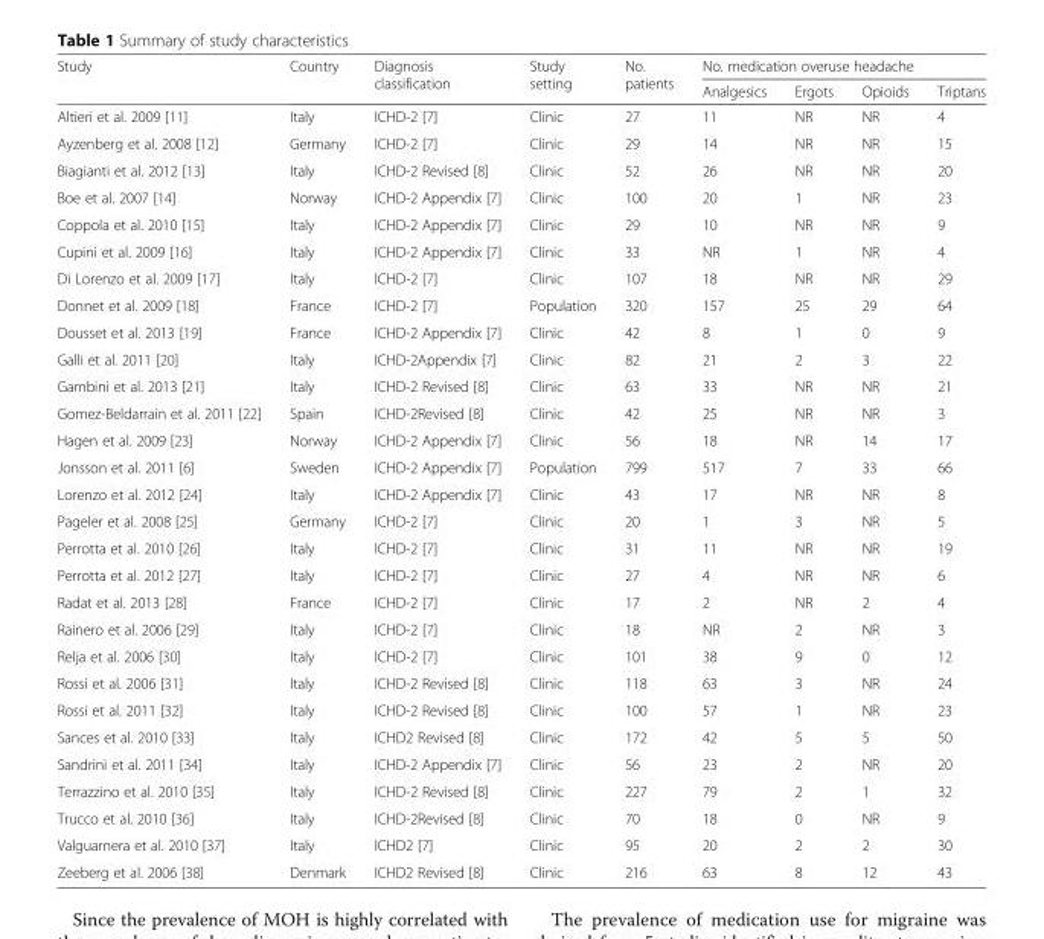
<table><thead><tr><td rowspan="2">Study</td><td rowspan="2">Country</td><td rowspan="2">Diagnosis classification</td><td rowspan="2">Study setting</td><td rowspan="2">No. patients</td><td colspan="4">No. medication overuse headache</td></tr><tr><td>Analgesics</td><td>Ergots</td><td>Opioids</td><td>Triptans</td></tr></thead><tbody><tr><td>Altieri et al. 2009 [11]</td><td>Italy</td><td>ICHD-2 [7]</td><td>Clinic</td><td>27</td><td>11</td><td>NR</td><td>NR</td><td>4</td></tr><tr><td>Ayzenberg et al. 2008 [12]</td><td>Germany</td><td>ICHD-2 [7]</td><td>Clinic</td><td>29</td><td>14</td><td>NR</td><td>NR</td><td>15</td></tr><tr><td>Biagianti et al. 2012 [13]</td><td>Italy</td><td>ICHD-2 Revised [8]</td><td>Clinic</td><td>52</td><td>26</td><td>NR</td><td>NR</td><td>20</td></tr><tr><td>Boe et al. 2007 [14]</td><td>Norway</td><td>ICHD-2 Appendix [7]</td><td>Clinic</td><td>100</td><td>20</td><td>1</td><td>NR</td><td>23</td></tr><tr><td>Coppola et al. 2010 [15]</td><td>Italy</td><td>ICHD-2 Appendix [7]</td><td>Clinic</td><td>29</td><td>10</td><td>NR</td><td>NR</td><td>9</td></tr><tr><td>Cupini et al. 2009 [16]</td><td>Italy</td><td>ICHD-2 Appendix [7]</td><td>Clinic</td><td>33</td><td>NR</td><td>1</td><td>NR</td><td>4</td></tr><tr><td>Di Lorenzo et al. 2009 [17]</td><td>Italy</td><td>ICHD-2 [7]</td><td>Clinic</td><td>107</td><td>18</td><td>NR</td><td>NR</td><td>29</td></tr><tr><td>Donnet et al. 2009 [18]</td><td>France</td><td>ICHD-2 [7]</td><td>Population</td><td>320</td><td>157</td><td>25</td><td>29</td><td>64</td></tr><tr><td>Dousset et al. 2013 [19]</td><td>France</td><td>ICHD-2 Appendix [7]</td><td>Clinic</td><td>42</td><td>8</td><td>1</td><td>0</td><td>9</td></tr><tr><td>Galli et al. 2011 [20]</td><td>Italy</td><td>ICHD-2Appendix [7]</td><td>Clinic</td><td>82</td><td>21</td><td>2</td><td>3</td><td>22</td></tr><tr><td>Gambini et al. 2013 [21]</td><td>Italy</td><td>ICHD-2 Revised [8]</td><td>Clinic</td><td>63</td><td>33</td><td>NR</td><td>NR</td><td>21</td></tr><tr><td>Gomez-Beldarrain et al. 2011 [22]</td><td>Spain</td><td>ICHD-2Revised [8]</td><td>Clinic</td><td>42</td><td>25</td><td>NR</td><td>NR</td><td>3</td></tr><tr><td>Hagen et al. 2009 [23]</td><td>Norway</td><td>ICHD-2 Appendix [7]</td><td>Clinic</td><td>56</td><td>18</td><td>NR</td><td>14</td><td>17</td></tr><tr><td>Jonsson et al. 2011 [6]</td><td>Sweden</td><td>ICHD-2 Appendix [7]</td><td>Population</td><td>799</td><td>517</td><td>7</td><td>33</td><td>66</td></tr><tr><td>Lorenzo et al. 2012 [24]</td><td>Italy</td><td>ICHD-2 Appendix [7]</td><td>Clinic</td><td>43</td><td>17</td><td>NR</td><td>NR</td><td>8</td></tr><tr><td>Pageler et al. 2008 [25]</td><td>Germany</td><td>ICHD-2 [7]</td><td>Clinic</td><td>20</td><td>1</td><td>3</td><td>NR</td><td>5</td></tr><tr><td>Perrotta et al. 2010 [26]</td><td>Italy</td><td>ICHD-2 [7]</td><td>Clinic</td><td>31</td><td>11</td><td>NR</td><td>NR</td><td>19</td></tr><tr><td>Perrotta et al. 2012 [27]</td><td>Italy</td><td>ICHD-2 [7]</td><td>Clinic</td><td>27</td><td>4</td><td>NR</td><td>NR</td><td>6</td></tr><tr><td>Radat et al. 2013 [28]</td><td>France</td><td>ICHD-2 [7]</td><td>Clinic</td><td>17</td><td>2</td><td>NR</td><td>2</td><td>4</td></tr><tr><td>Rainero et al. 2006 [29]</td><td>Italy</td><td>ICHD-2 [7]</td><td>Clinic</td><td>18</td><td>NR</td><td>2</td><td>NR</td><td>3</td></tr><tr><td>Relja et al. 2006 [30]</td><td>Italy</td><td>ICHD-2 [7]</td><td>Clinic</td><td>101</td><td>38</td><td>9</td><td>0</td><td>12</td></tr><tr><td>Rossi et al. 2006 [31]</td><td>Italy</td><td>ICHD-2 Revised [8]</td><td>Clinic</td><td>118</td><td>63</td><td>3</td><td>NR</td><td>24</td></tr><tr><td>Rossi et al. 2011 [32]</td><td>Italy</td><td>ICHD-2 Revised [8]</td><td>Clinic</td><td>100</td><td>57</td><td>1</td><td>NR</td><td>23</td></tr><tr><td>Sances et al. 2010 [33]</td><td>Italy</td><td>ICHD2 Revised [8]</td><td>Clinic</td><td>172</td><td>42</td><td>5</td><td>5</td><td>50</td></tr><tr><td>Sandrini et al. 2011 [34]</td><td>Italy</td><td>ICHD-2 Appendix [7]</td><td>Clinic</td><td>56</td><td>23</td><td>2</td><td>NR</td><td>20</td></tr><tr><td>Terrazzino et al. 2010 [35]</td><td>Italy</td><td>ICHD-2 Revised [8]</td><td>Clinic</td><td>227</td><td>79</td><td>2</td><td>1</td><td>32</td></tr><tr><td>Trucco et al. 2010 [36]</td><td>Italy</td><td>ICHD-2Revised [8]</td><td>Clinic</td><td>70</td><td>18</td><td>0</td><td>NR</td><td>9</td></tr><tr><td>Valguarnera et al. 2010 [37]</td><td>Italy</td><td>ICHD2 [7]</td><td>Clinic</td><td>95</td><td>20</td><td>2</td><td>2</td><td>30</td></tr><tr><td>Zeeberg et al. 2006 [38]</td><td>Denmark</td><td>ICHD2 Revised [8]</td><td>Clinic</td><td>216</td><td>63</td><td>8</td><td>12</td><td>43</td></tr></tbody></table>